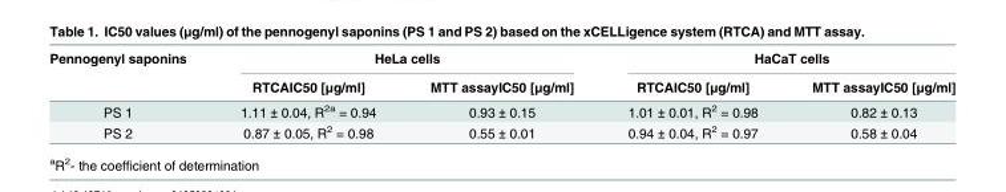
<table><thead><tr><td rowspan="2">Pennogenyl saponins</td><td colspan="2">HeLa cells</td><td colspan="2">HaCaT cells</td></tr><tr><td>RTCAIC50 [μg/ml]</td><td>MTT assayIC50 [μg/ml]</td><td>RTCAIC50 [μg/ml]</td><td>MTT assayIC50 [μg/ml]</td></tr></thead><tbody><tr><td>PS 1</td><td>1.11 ± 0.04, R<sup>2a</sup> = 0.94</td><td>0.93 ± 0.15</td><td>1.01 ± 0.01, R<sup>2</sup> = 0.98</td><td>0.82 ± 0.13</td></tr><tr><td>PS 2</td><td>0.87 ± 0.05, R<sup>2</sup> = 0.98</td><td>0.55 ± 0.01</td><td>0.94 ± 0.04, R<sup>2</sup> = 0.97</td><td>0.58 ± 0.04</td></tr></tbody></table>